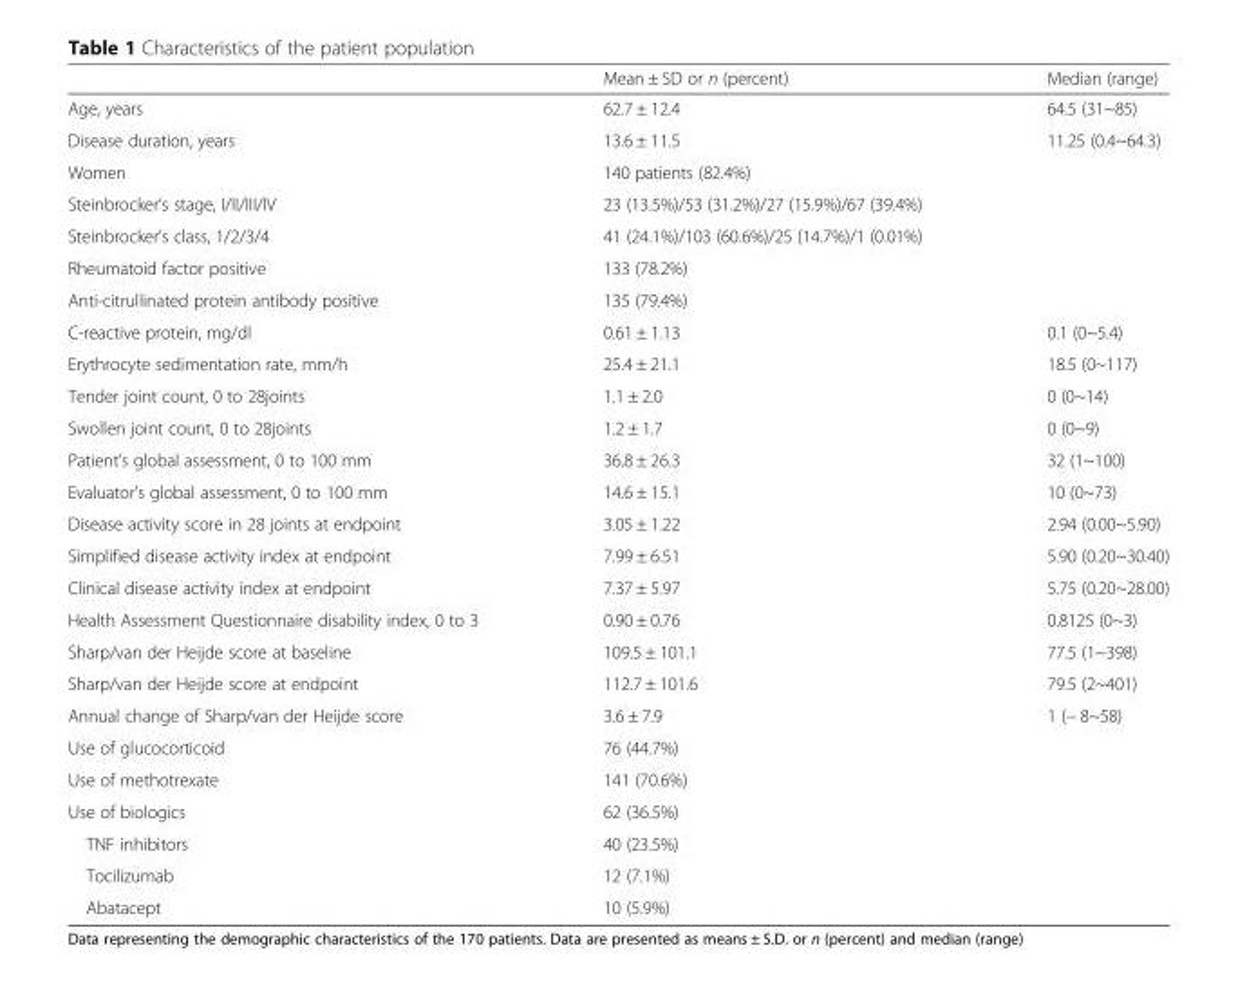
<table><thead><tr><td></td><td>Mean ± SD or n (percent)</td><td>Median (range)</td></tr></thead><tbody><tr><td>Age, years</td><td>62.7 ± 12.4</td><td>64.5 (31~85)</td></tr><tr><td>Disease duration, years</td><td>13.6 ± 11.5</td><td>11.25 (0.4~64.3)</td></tr><tr><td>Women</td><td>140 patients (82.4%)</td><td></td></tr><tr><td>Steinbrocker‘s stage, I/II/III/IV</td><td>23 (13.5%)/53 (31.2%)/27 (15.9%)/67 (39.4%)</td><td></td></tr><tr><td>Steinbrocker’s class, 1/2/3/4</td><td>41 (24.1%)/103 (60.6%)/25 (14.7%)/1 (0.01%)</td><td></td></tr><tr><td>Rheumatoid factor positive</td><td>133 (78.2%)</td><td></td></tr><tr><td>Anti-citrullinated protein antibody positive</td><td>135 (79.4%)</td><td></td></tr><tr><td>C-reactive protein, mg/dl</td><td>0.61 ± 1.13</td><td>0.1 (0~5.4)</td></tr><tr><td>Erythrocyte sedimentation rate, mm/h</td><td>25.4 ± 21.1</td><td>18.5 (0~117)</td></tr><tr><td>Tender joint count, 0 to 28joints</td><td>1.1 ± 2.0</td><td>0 (0~14)</td></tr><tr><td>Swollen joint count, 0 to 28joints</td><td>1.2 ± 1.7</td><td>0 (0~9)</td></tr><tr><td>Patient’s global assessment, 0 to 100 mm</td><td>36.8 ± 26.3</td><td>32 (1~100)</td></tr><tr><td>Evaluator’s global assessment, 0 to 100 mm</td><td>14.6 ± 15.1</td><td>10 (0~73)</td></tr><tr><td>Disease activity score in 28 joints at endpoint</td><td>3.05 ± 1.22</td><td>2.94 (0.00~5.90)</td></tr><tr><td>Simplified disease activity index at endpoint</td><td>7.99 ± 6.51</td><td>5.90 (0.20~30.40)</td></tr><tr><td>Clinical disease activity index at endpoint</td><td>7.37 ± 5.97</td><td>5.75 (0.20~28.00)</td></tr><tr><td>Health Assessment Questionnaire disability index, 0 to 3</td><td>0.90 ± 0.76</td><td>0.8125 (0~3)</td></tr><tr><td>Sharp/van der Heijde score at baseline</td><td>109.5 ± 101.1</td><td>77.5 (1~398)</td></tr><tr><td>Sharp/van der Heijde score at endpoint</td><td>112.7 ± 101.6</td><td>79.5 (2~401)</td></tr><tr><td>Annual change of Sharp/van der Heijde score</td><td>3.6 ± 7.9</td><td>1 (− 8~58)</td></tr><tr><td>Use of glucocorticoid</td><td>76 (44.7%)</td><td></td></tr><tr><td>Use of methotrexate</td><td>141 (70.6%)</td><td></td></tr><tr><td>Use of biologics</td><td>62 (36.5%)</td><td></td></tr><tr><td>TNF inhibitors</td><td>40 (23.5%)</td><td></td></tr><tr><td>Tocilizumab</td><td>12 (7.1%)</td><td></td></tr><tr><td>Abatacept</td><td>10 (5.9%)</td><td></td></tr></tbody></table>